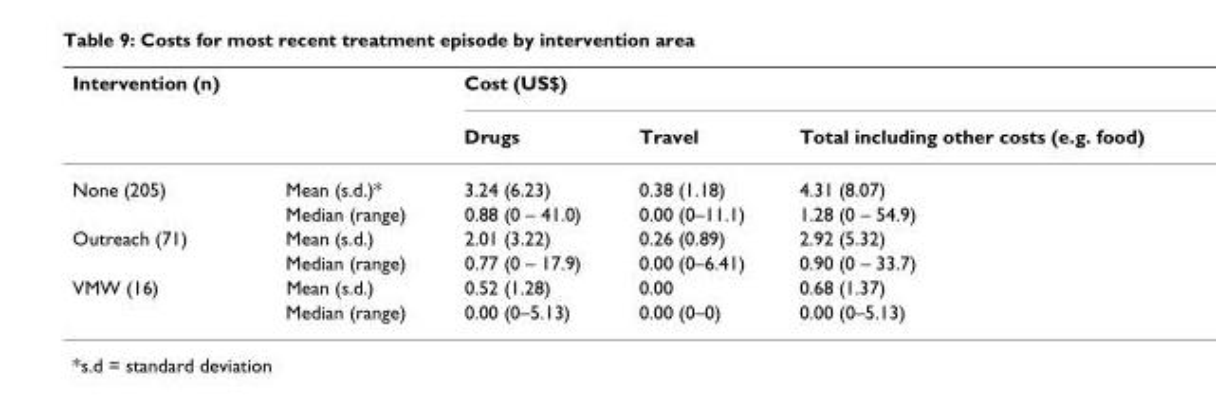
<table><thead><tr><td rowspan="2">Intervention (n)</td><td rowspan="2"></td><td colspan="3">Cost (US$)</td></tr><tr><td>Drugs</td><td>Travel</td><td>Total including other costs (e.g. food)</td></tr></thead><tbody><tr><td rowspan="2">None (205)</td><td>Mean (s.d.)*</td><td>3.24 (6.23)</td><td>0.38 (1.18)</td><td>4.31 (8.07)</td></tr><tr><td>Median (range)</td><td>0.88 (0 – 41.0)</td><td>0.00 (0–11.1)</td><td>1.28 (0 – 54.9)</td></tr><tr><td rowspan="2">Outreach (71)</td><td>Mean (s.d.)</td><td>2.01 (3.22)</td><td>0.26 (0.89)</td><td>2.92 (5.32)</td></tr><tr><td>Median (range)</td><td>0.77 (0 – 17.9)</td><td>0.00 (0–6.41)</td><td>0.90 (0 – 33.7)</td></tr><tr><td rowspan="2">VMW (16)</td><td>Mean (s.d.)</td><td>0.52 (1.28)</td><td>0.00</td><td>0.68 (1.37)</td></tr><tr><td>Median (range)</td><td>0.00 (0–5.13)</td><td>0.00 (0–0)</td><td>0.00 (0–5.13)</td></tr></tbody></table>